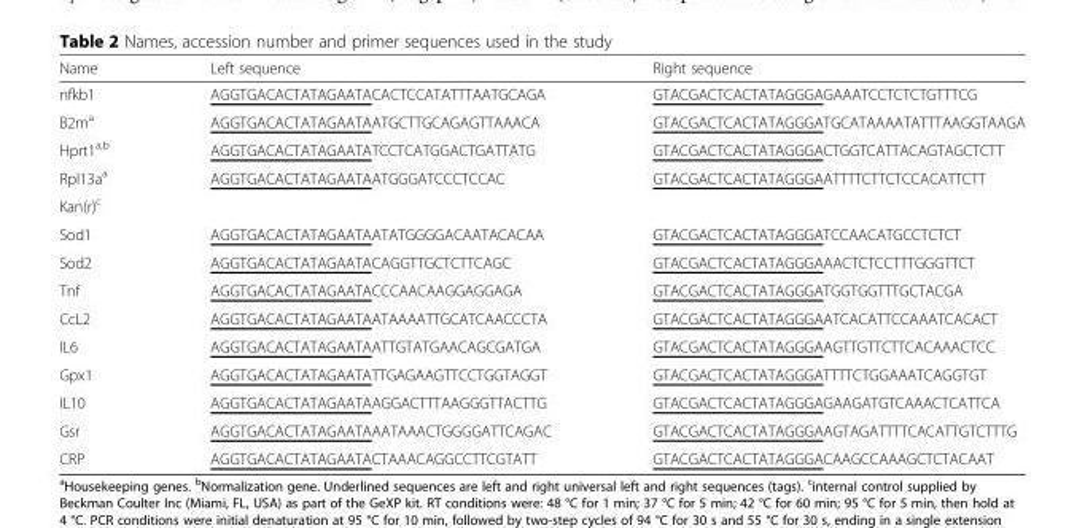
<table><thead><tr><td>Name</td><td>Left sequence</td><td>Right sequence</td></tr></thead><tbody><tr><td>nfkb1</td><td>AGGTGACACTATAGAATACACTCCATATTTAATGCAGA</td><td>GTACGACTCACTATAGGGAGAAATCCTCTCTGTTTCG</td></tr><tr><td>B2m<sup>a</sup></td><td>AGGTGACACTATAGAATAATGCTTGCAGAGTTAAACA</td><td>GTACGACTCACTATAGGGATGCATAAAATATTTAAGGTAAGA</td></tr><tr><td>Hprt1<sup>a,b</sup></td><td>AGGTGACACTATAGAATATCCTCATGGACTGATTATG</td><td>GTACGACTCACTATAGGGACTGGTCATTACAGTAGCTCTT</td></tr><tr><td>Rpl13a<sup>a</sup></td><td>AGGTGACACTATAGAATAATGGGATCCCTCCAC</td><td>GTACGACTCACTATAGGGAATTTTCTTCTCCACATTCTT</td></tr><tr><td colspan="3">Kan(r)<sup>c</sup></td></tr><tr><td>Sod1</td><td>AGGTGACACTATAGAATAATATGGGGACAATACACAA</td><td>GTACGACTCACTATAGGGATCCAACATGCCTCTCT</td></tr><tr><td>Sod2</td><td>AGGTGACACTATAGAATACAGGTTGCTCTTCAGC</td><td>GTACGACTCACTATAGGGAAACTCTCCTTTGGGTTCT</td></tr><tr><td>Tnf</td><td>AGGTGACACTATAGAATACCCAACAAGGAGGAGA</td><td>GTACGACTCACTATAGGGATGGTGGTTTGCTACGA</td></tr><tr><td>CcL2</td><td>AGGTGACACTATAGAATAATAAAATTGCATCAACCCTA</td><td>GTACGACTCACTATAGGGAATCACATTCCAAATCACACT</td></tr><tr><td>IL6</td><td>AGGTGACACTATAGAATAATTGTATGAACAGCGATGA</td><td>GTACGACTCACTATAGGGAAGTTGTTCTTCACAAACTCC</td></tr><tr><td>Gpx1</td><td>AGGTGACACTATAGAATATTGAGAAGTTCCTGGTAGGT</td><td>GTACGACTCACTATAGGGATTTTCTGGAAATCAGGTGT</td></tr><tr><td>IL10</td><td>AGGTGACACTATAGAATAAGGACTTTAAGGGTTACTTG</td><td>GTACGACTCACTATAGGGAGAAGATGTCAAACTCATTCA</td></tr><tr><td>Gsr</td><td>AGGTGACACTATAGAATAAATAAACTGGGGATTCAGAC</td><td>GTACGACTCACTATAGGGAAGTAGATTTTCACATTGTCTTTG</td></tr><tr><td>CRP</td><td>AGGTGACACTATAGAATACTAAACAGGCCTTCGTATT</td><td>GTACGACTCACTATAGGGACAAGCCAAAGCTCTACAAT</td></tr></tbody></table>